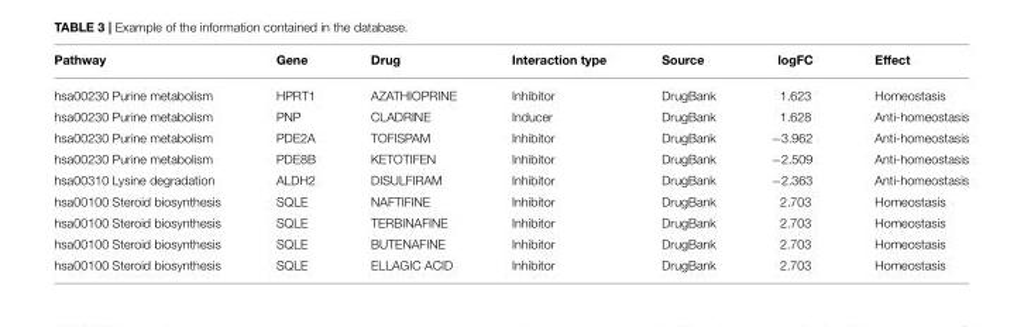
<table><thead><tr><td>Pathway</td><td>Gene</td><td>Drug</td><td>Interaction type</td><td>Source</td><td>logFC</td><td>Effect</td></tr></thead><tbody><tr><td>hsa00230 Purine metabolism</td><td>HPRT1</td><td>AZATHIOPRINE</td><td>Inhibitor</td><td>DrugBank</td><td>1.623</td><td>Homeostasis</td></tr><tr><td>hsa00230 Purine metabolism</td><td>PNP</td><td>CLADRINE</td><td>Inducer</td><td>DrugBank</td><td>1.628</td><td>Anti-homeostasis</td></tr><tr><td>hsa00230 Purine metabolism</td><td>PDE2A</td><td>TOFISPAM</td><td>Inhibitor</td><td>DrugBank</td><td>−3.962</td><td>Anti-homeostasis</td></tr><tr><td>hsa00230 Purine metabolism</td><td>PDE8B</td><td>KETOTIFEN</td><td>Inhibitor</td><td>DrugBank</td><td>−2.509</td><td>Anti-homeostasis</td></tr><tr><td>hsa00310 Lysine degradation</td><td>ALDH2</td><td>DISULFIRAM</td><td>Inhibitor</td><td>DrugBank</td><td>−2.363</td><td>Anti-homeostasis</td></tr><tr><td>hsa00100 Steroid biosynthesis</td><td>SQLE</td><td>NAFTIFINE</td><td>Inhibitor</td><td>DrugBank</td><td>2.703</td><td>Homeostasis</td></tr><tr><td>hsa00100 Steroid biosynthesis</td><td>SQLE</td><td>TERBINAFINE</td><td>Inhibitor</td><td>DrugBank</td><td>2.703</td><td>Homeostasis</td></tr><tr><td>hsa00100 Steroid biosynthesis</td><td>SQLE</td><td>BUTENAFINE</td><td>Inhibitor</td><td>DrugBank</td><td>2.703</td><td>Homeostasis</td></tr><tr><td>hsa00100 Steroid biosynthesis</td><td>SQLE</td><td>ELLAGIC ACID</td><td>Inhibitor</td><td>DrugBank</td><td>2.703</td><td>Homeostasis</td></tr></tbody></table>